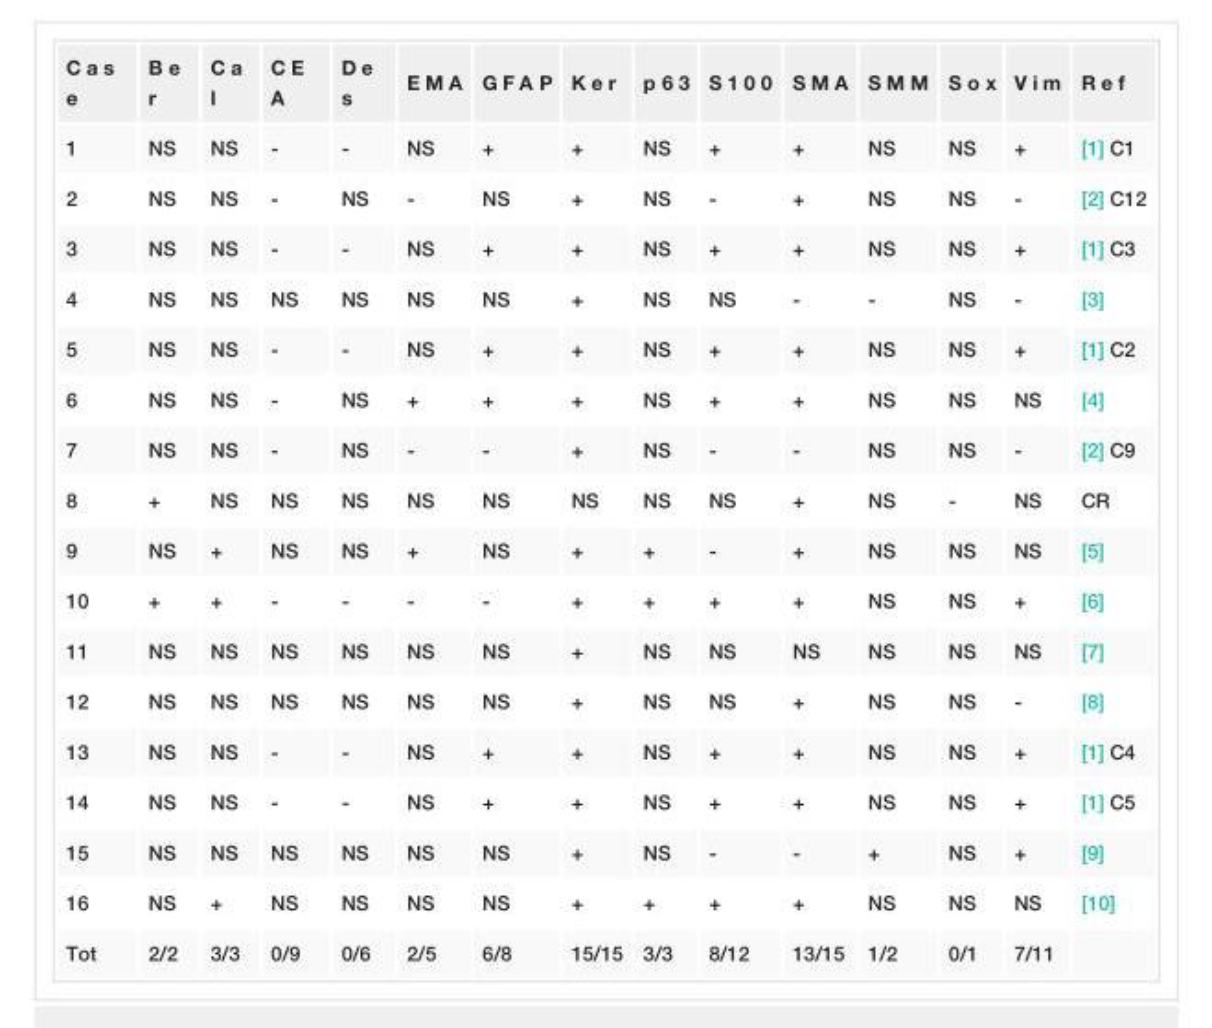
<table><tbody><tr><td>C a s e</td><td>B e r</td><td>C a l</td><td>C E A</td><td>D e s</td><td>E M A</td><td>G F A P</td><td>K e r</td><td>p 6 3</td><td>S 1 0 0</td><td>S M A</td><td>S M M</td><td>S o x</td><td>V i m</td><td>R e f</td></tr><tr><td>1</td><td>NS</td><td>NS</td><td>-</td><td>-</td><td>NS</td><td>+</td><td>+</td><td>NS</td><td>+</td><td>+</td><td>NS</td><td>NS</td><td>+</td><td>[1] C1</td></tr><tr><td>2</td><td>NS</td><td>NS</td><td>-</td><td>NS</td><td>-</td><td>NS</td><td>+</td><td>NS</td><td>-</td><td>+</td><td>NS</td><td>NS</td><td>-</td><td>[2] C12</td></tr><tr><td>3</td><td>NS</td><td>NS</td><td>-</td><td>-</td><td>NS</td><td>+</td><td>+</td><td>NS</td><td>+</td><td>+</td><td>NS</td><td>NS</td><td>+</td><td>[1] C3</td></tr><tr><td>4</td><td>NS</td><td>NS</td><td>NS</td><td>NS</td><td>NS</td><td>NS</td><td>+</td><td>NS</td><td>NS</td><td>-</td><td>-</td><td>NS</td><td>-</td><td>[3]</td></tr><tr><td>5</td><td>NS</td><td>NS</td><td>-</td><td>-</td><td>NS</td><td>+</td><td>+</td><td>NS</td><td>+</td><td>+</td><td>NS</td><td>NS</td><td>+</td><td>[1] C2</td></tr><tr><td>6</td><td>NS</td><td>NS</td><td>-</td><td>NS</td><td>+</td><td>+</td><td>+</td><td>NS</td><td>+</td><td>+</td><td>NS</td><td>NS</td><td>NS</td><td>[4]</td></tr><tr><td>7</td><td>NS</td><td>NS</td><td>-</td><td>NS</td><td>-</td><td>-</td><td>+</td><td>NS</td><td>-</td><td>-</td><td>NS</td><td>NS</td><td>-</td><td>[2] C9</td></tr><tr><td>8</td><td>+</td><td>NS</td><td>NS</td><td>NS</td><td>NS</td><td>NS</td><td>NS</td><td>NS</td><td>NS</td><td>+</td><td>NS</td><td>-</td><td>NS</td><td>CR</td></tr><tr><td>9</td><td>NS</td><td>+</td><td>NS</td><td>NS</td><td>+</td><td>NS</td><td>+</td><td>+</td><td>-</td><td>+</td><td>NS</td><td>NS</td><td>NS</td><td>[5]</td></tr><tr><td>10</td><td>+</td><td>+</td><td>-</td><td>-</td><td>-</td><td>-</td><td>+</td><td>+</td><td>+</td><td>+</td><td>NS</td><td>NS</td><td>+</td><td>[6]</td></tr><tr><td>11</td><td>NS</td><td>NS</td><td>NS</td><td>NS</td><td>NS</td><td>NS</td><td>+</td><td>NS</td><td>NS</td><td>NS</td><td>NS</td><td>NS</td><td>NS</td><td>[7]</td></tr><tr><td>12</td><td>NS</td><td>NS</td><td>NS</td><td>NS</td><td>NS</td><td>NS</td><td>+</td><td>NS</td><td>NS</td><td>+</td><td>NS</td><td>NS</td><td>-</td><td>[8]</td></tr><tr><td>13</td><td>NS</td><td>NS</td><td>-</td><td>-</td><td>NS</td><td>+</td><td>+</td><td>NS</td><td>+</td><td>+</td><td>NS</td><td>NS</td><td>+</td><td>[1] C4</td></tr><tr><td>14</td><td>NS</td><td>NS</td><td>-</td><td>-</td><td>NS</td><td>+</td><td>+</td><td>NS</td><td>+</td><td>+</td><td>NS</td><td>NS</td><td>+</td><td>[1] C5</td></tr><tr><td>15</td><td>NS</td><td>NS</td><td>NS</td><td>NS</td><td>NS</td><td>NS</td><td>+</td><td>NS</td><td>-</td><td>-</td><td>+</td><td>NS</td><td>+</td><td>[9]</td></tr><tr><td>16</td><td>NS</td><td>+</td><td>NS</td><td>NS</td><td>NS</td><td>NS</td><td>+</td><td>+</td><td>+</td><td>+</td><td>NS</td><td>NS</td><td>NS</td><td>[10]</td></tr><tr><td>Tot</td><td>2/2</td><td>3/3</td><td>0/9</td><td>0/6</td><td>2/5</td><td>6/8</td><td>15/15</td><td>3/3</td><td>8/12</td><td>13/15</td><td>1/2</td><td>0/1</td><td>7/11</td><td></td></tr></tbody></table>